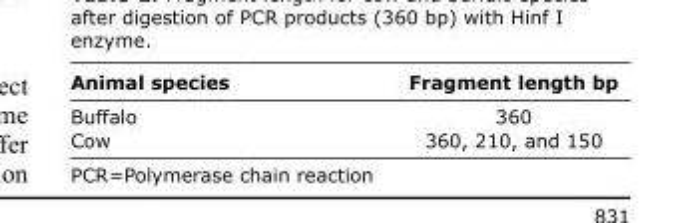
<table><thead><tr><td>Animal species</td><td>Fragment length bp</td></tr></thead><tbody><tr><td>Buffalo</td><td>360</td></tr><tr><td>Cow</td><td>360, 210, and 150</td></tr></tbody></table>